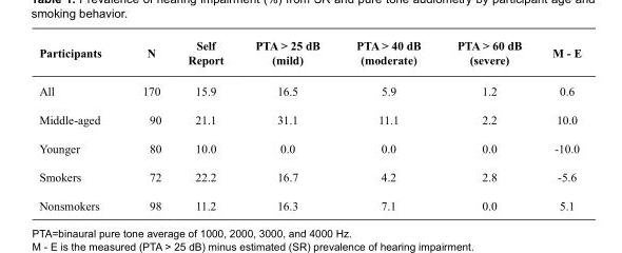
<table><thead><tr><td>Participants</td><td>N</td><td>Self Report</td><td>PTA &gt; 25 dB (mild)</td><td>PTA &gt; 40 dB (moderate)</td><td>PTA &gt; 60 dB (severe)</td><td>M - E</td></tr></thead><tbody><tr><td>All</td><td>170</td><td>15.9</td><td>16.5</td><td>5.9</td><td>1.2</td><td>0.6</td></tr><tr><td>Middle-aged</td><td>90</td><td>21.1</td><td>31.1</td><td>11.1</td><td>2.2</td><td>10.0</td></tr><tr><td>Younger</td><td>80</td><td>10.0</td><td>0.0</td><td>0.0</td><td>0.0</td><td>-10.0</td></tr><tr><td>Smokers</td><td>72</td><td>22.2</td><td>16.7</td><td>4.2</td><td>2.8</td><td>-5.6</td></tr><tr><td>Nonsmokers</td><td>98</td><td>11.2</td><td>16.3</td><td>7.1</td><td>0.0</td><td>5.1</td></tr></tbody></table>